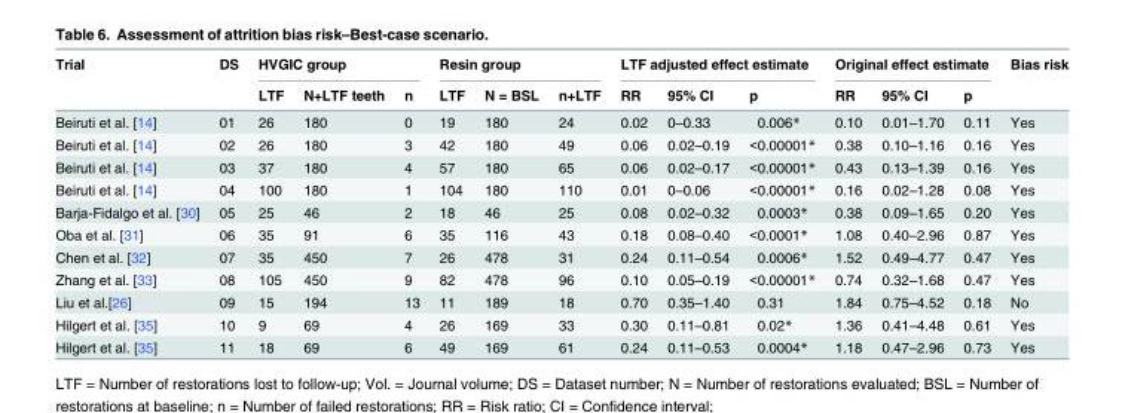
<table><thead><tr><td rowspan="2">Trial</td><td rowspan="2">DS</td><td colspan="3">HVGIC group</td><td colspan="3">Resin group</td><td colspan="3">LTF adjusted effect estimate</td><td colspan="3">Original effect estimate</td><td rowspan="2">Bias risk</td></tr><tr><td>LTF</td><td>N+LTF teeth</td><td>n</td><td>LTF</td><td>N = BSL</td><td>n+LTF</td><td>RR</td><td>95% CI</td><td>p</td><td>RR</td><td>95% CI</td><td>p</td></tr></thead><tbody><tr><td>Beiruti et al. [14]</td><td>01</td><td>26</td><td>180</td><td>0</td><td>19</td><td>180</td><td>24</td><td>0.02</td><td>0–0.33</td><td>0.006*</td><td>0.10</td><td>0.01–1.70</td><td>0.11</td><td>Yes</td></tr><tr><td>Beiruti et al. [14]</td><td>02</td><td>26</td><td>180</td><td>3</td><td>42</td><td>180</td><td>49</td><td>0.06</td><td>0.02–0.19</td><td>&lt;0.00001*</td><td>0.38</td><td>0.10–1.16</td><td>0.16</td><td>Yes</td></tr><tr><td>Beiruti et al. [14]</td><td>03</td><td>37</td><td>180</td><td>4</td><td>57</td><td>180</td><td>65</td><td>0.06</td><td>0.02–0.17</td><td>&lt;0.00001*</td><td>0.43</td><td>0.13–1.39</td><td>0.16</td><td>Yes</td></tr><tr><td>Beiruti et al. [14]</td><td>04</td><td>100</td><td>180</td><td>1</td><td>104</td><td>180</td><td>110</td><td>0.01</td><td>0–0.06</td><td>&lt;0.00001*</td><td>0.16</td><td>0.02–1.28</td><td>0.08</td><td>Yes</td></tr><tr><td>Barja-Fidalgo et al. [30]</td><td>05</td><td>25</td><td>46</td><td>2</td><td>18</td><td>46</td><td>25</td><td>0.08</td><td>0.02–0.32</td><td>0.0003*</td><td>0.38</td><td>0.09–1.65</td><td>0.20</td><td>Yes</td></tr><tr><td>Oba et al. [31]</td><td>06</td><td>35</td><td>91</td><td>6</td><td>35</td><td>116</td><td>43</td><td>0.18</td><td>0.08–0.40</td><td>&lt;0.0001*</td><td>1.08</td><td>0.40–2.96</td><td>0.87</td><td>Yes</td></tr><tr><td>Chen et al. [32]</td><td>07</td><td>35</td><td>450</td><td>7</td><td>26</td><td>478</td><td>31</td><td>0.24</td><td>0.11–0.54</td><td>0.0006*</td><td>1.52</td><td>0.49–4.77</td><td>0.47</td><td>Yes</td></tr><tr><td>Zhang et al. [33]</td><td>08</td><td>105</td><td>450</td><td>9</td><td>82</td><td>478</td><td>96</td><td>0.10</td><td>0.05–0.19</td><td>&lt;0.00001*</td><td>0.74</td><td>0.32–1.68</td><td>0.47</td><td>Yes</td></tr><tr><td>Liu et al.[26]</td><td>09</td><td>15</td><td>194</td><td>13</td><td>11</td><td>189</td><td>18</td><td>0.70</td><td>0.35–1.40</td><td>0.31</td><td>1.84</td><td>0.75–4.52</td><td>0.18</td><td>No</td></tr><tr><td>Hilgert et al. [35]</td><td>10</td><td>9</td><td>69</td><td>4</td><td>26</td><td>169</td><td>33</td><td>0.30</td><td>0.11–0.81</td><td>0.02*</td><td>1.36</td><td>0.41–4.48</td><td>0.61</td><td>Yes</td></tr><tr><td>Hilgert et al. [35]</td><td>11</td><td>18</td><td>69</td><td>6</td><td>49</td><td>169</td><td>61</td><td>0.24</td><td>0.11–0.53</td><td>0.0004*</td><td>1.18</td><td>0.47–2.96</td><td>0.73</td><td>Yes</td></tr></tbody></table>